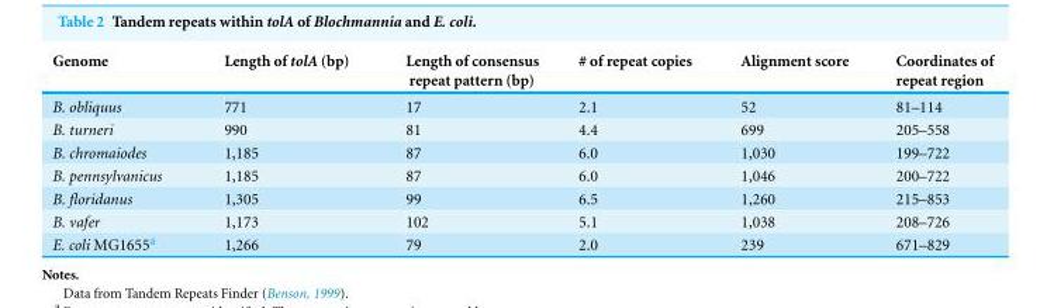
<table><thead><tr><td>Genome</td><td>Length of tolA (bp)</td><td>Length of consensus repeat pattern (bp)</td><td># of repeat copies</td><td>Alignment score</td><td>Coordinates of repeat region</td></tr></thead><tbody><tr><td>B. obliquus</td><td>771</td><td>17</td><td>2.1</td><td>52</td><td>81–114</td></tr><tr><td>B. turneri</td><td>990</td><td>81</td><td>4.4</td><td>699</td><td>205–558</td></tr><tr><td>B. chromaiodes</td><td>1,185</td><td>87</td><td>6.0</td><td>1,030</td><td>199–722</td></tr><tr><td>B. pennsylvanicus</td><td>1,185</td><td>87</td><td>6.0</td><td>1,046</td><td>200–722</td></tr><tr><td>B. floridanus</td><td>1,305</td><td>99</td><td>6.5</td><td>1,260</td><td>215–853</td></tr><tr><td>B. vafer</td><td>1,173</td><td>102</td><td>5.1</td><td>1,038</td><td>208–726</td></tr><tr><td>E. coli MG1655<sup>a</sup></td><td>1,266</td><td>79</td><td>2.0</td><td>239</td><td>671–829</td></tr></tbody></table>